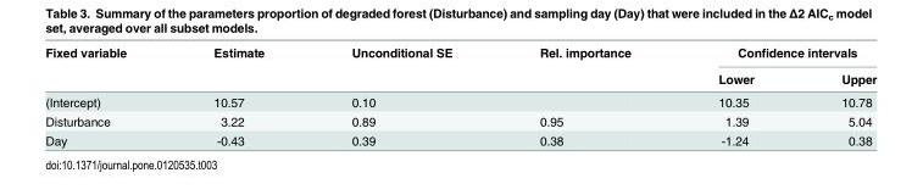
<table><thead><tr><td rowspan="2">Fixed variable</td><td rowspan="2">Estimate</td><td rowspan="2">Unconditional SE</td><td rowspan="2">Rel. importance</td><td colspan="2">Confidence intervals</td></tr><tr><td>Lower</td><td>Upper</td></tr></thead><tbody><tr><td>(Intercept)</td><td>10.57</td><td>0.10</td><td></td><td>10.35</td><td>10.78</td></tr><tr><td>Disturbance</td><td>3.22</td><td>0.89</td><td>0.95</td><td>1.39</td><td>5.04</td></tr><tr><td>Day</td><td>-0.43</td><td>0.39</td><td>0.38</td><td>-1.24</td><td>0.38</td></tr></tbody></table>